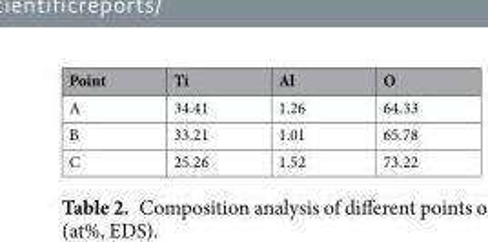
<table><thead><tr><td>Point</td><td>Ti</td><td>Al</td><td>O</td></tr></thead><tbody><tr><td>A</td><td>34.41</td><td>1.26</td><td>64.33</td></tr><tr><td>B</td><td>33.21</td><td>1.01</td><td>65.78</td></tr><tr><td>C</td><td>25.26</td><td>1.52</td><td>73.22</td></tr></tbody></table>